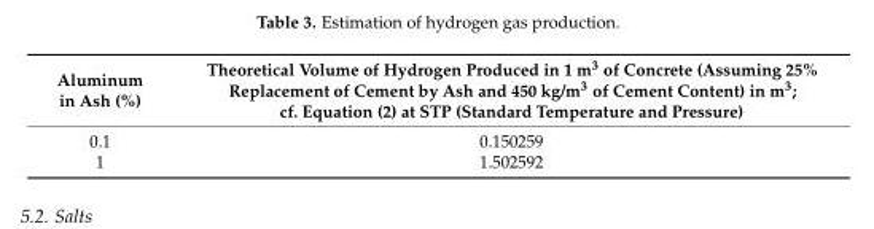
<table><thead><tr><td>Aluminum in Ash (%)</td><td>Theoretical Volume of Hydrogen Produced in 1 m<sup>3</sup> of Concrete (Assuming 25% Replacement of Cement by Ash and 450 kg/m<sup>3</sup> of Cement Content) in m<sup>3</sup>; cf. Equation (2) at STP (Standard Temperature and Pressure)</td></tr></thead><tbody><tr><td>0.1</td><td>0.150259</td></tr><tr><td>1</td><td>1.502592</td></tr></tbody></table>